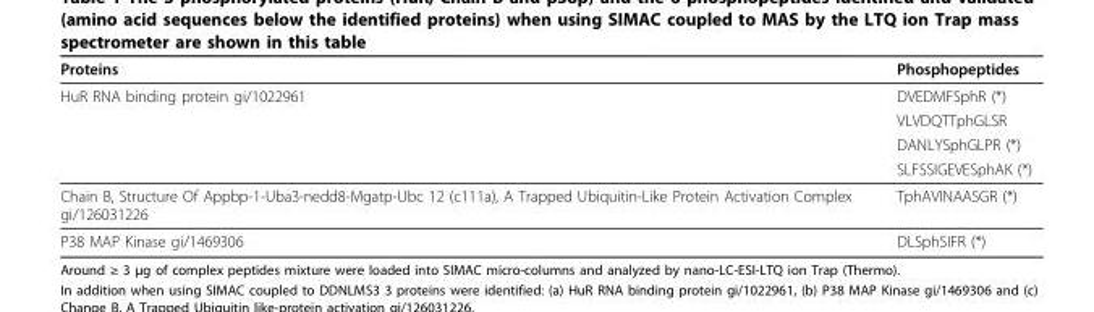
<table><thead><tr><td>Proteins</td><td>Phosphopeptides</td></tr></thead><tbody><tr><td rowspan="4">HuR RNA binding protein gi/1022961</td><td>DVEDMFSphR (*)</td></tr><tr><td>VLVDQTTphGLSR</td></tr><tr><td>DANLYSphGLPR (*)</td></tr><tr><td>SLFSSIGEVESphAK (*)</td></tr><tr><td>Chain B, Structure Of Appbp-1-Uba3-nedd8-Mgatp-Ubc 12 (c111a), A Trapped Ubiquitin-Like Protein Activation Complex gi/126031226</td><td>TphAVINAASGR (*)</td></tr><tr><td>P38 MAP Kinase gi/1469306</td><td>DLSphSIFR (*)</td></tr></tbody></table>